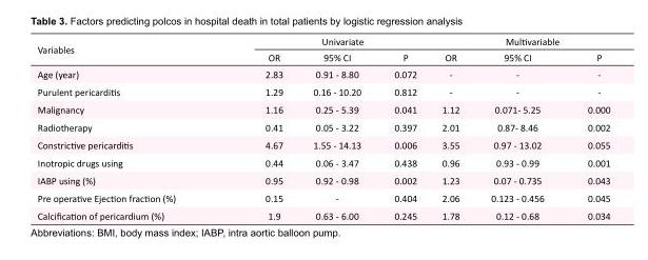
<table><tbody><tr><td rowspan="2">Variables</td><td colspan="3">Univariate</td><td colspan="3">Multivariable</td></tr><tr><td>OR</td><td>95% CI</td><td>P</td><td>OR</td><td>95% CI</td><td>P</td></tr><tr><td>Age (year)</td><td>2.83</td><td>0.91 - 8.80</td><td>0.072</td><td>-</td><td>-</td><td>-</td></tr><tr><td>Purulent pericarditis</td><td>1.29</td><td>0.16 - 10.20</td><td>0.812</td><td>-</td><td>-</td><td>-</td></tr><tr><td>Malignancy</td><td>1.16</td><td>0.25 - 5.39</td><td>0.041</td><td>1.12</td><td>0.071- 5.25</td><td>0.000</td></tr><tr><td>Radiotherapy</td><td>0.41</td><td>0.05 - 3.22</td><td>0.397</td><td>2.01</td><td>0.87- 8.46</td><td>0.002</td></tr><tr><td>Constrictive pericarditis</td><td>4.67</td><td>1.55 - 14.13</td><td>0.006</td><td>3.55</td><td>0.97 - 13.02</td><td>0.055</td></tr><tr><td>Inotropic drugs using</td><td>0.44</td><td>0.06 - 3.47</td><td>0.438</td><td>0.96</td><td>0.93 - 0.99</td><td>0.001</td></tr><tr><td>IABP using (%)</td><td>0.95</td><td>0.92 - 0.98</td><td>0.002</td><td>1.23</td><td>0.07 - 0.735</td><td>0.043</td></tr><tr><td>Pre operative Ejection fraction (%)</td><td>0.15</td><td>-</td><td>0.404</td><td>2.06</td><td>0.123 - 0.456</td><td>0.045</td></tr><tr><td>Calcification of pericardium (%)</td><td>1.9</td><td>0.63 - 6.00</td><td>0.245</td><td>1.78</td><td>0.12 - 0.68</td><td>0.034</td></tr></tbody></table>